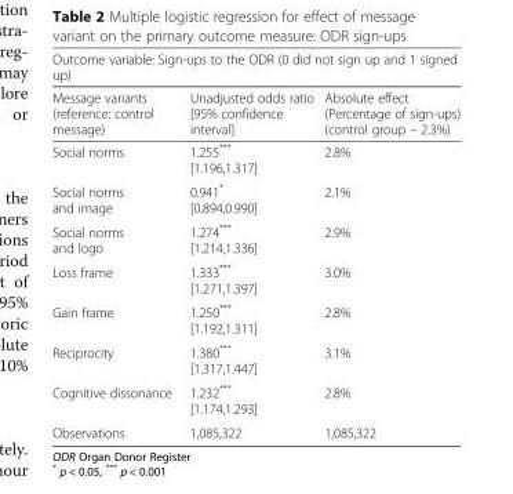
<table><thead><tr><td colspan="3">Outcome variable: Sign-ups to the ODR (0 did not sign up and 1 signed up)</td></tr><tr><td>Message variants (reference: control message)</td><td>Unadjusted odds ratio [95% confidence interval]</td><td>Absolute effect (Percentage of sign-ups) (control group – 2.3%)</td></tr></thead><tbody><tr><td>Social norms</td><td>1.255*** [1.196,1.317]</td><td>2.8%</td></tr><tr><td>Social norms and image</td><td>0.941* [0.894,0.990]</td><td>2.1%</td></tr><tr><td>Social norms and logo</td><td>1.274*** [1.214,1.336]</td><td>2.9%</td></tr><tr><td>Loss frame</td><td>1.333*** [1.271,1.397]</td><td>3.0%</td></tr><tr><td>Gain frame</td><td>1.250*** [1.192,1.311]</td><td>2.8%</td></tr><tr><td>Reciprocity</td><td>1.380*** [1.317,1.447]</td><td>3.1%</td></tr><tr><td>Cognitive dissonance</td><td>1.232*** [1.174,1.293]</td><td>2.8%</td></tr><tr><td>Observations</td><td>1,085,322</td><td>1,085,322</td></tr></tbody></table>